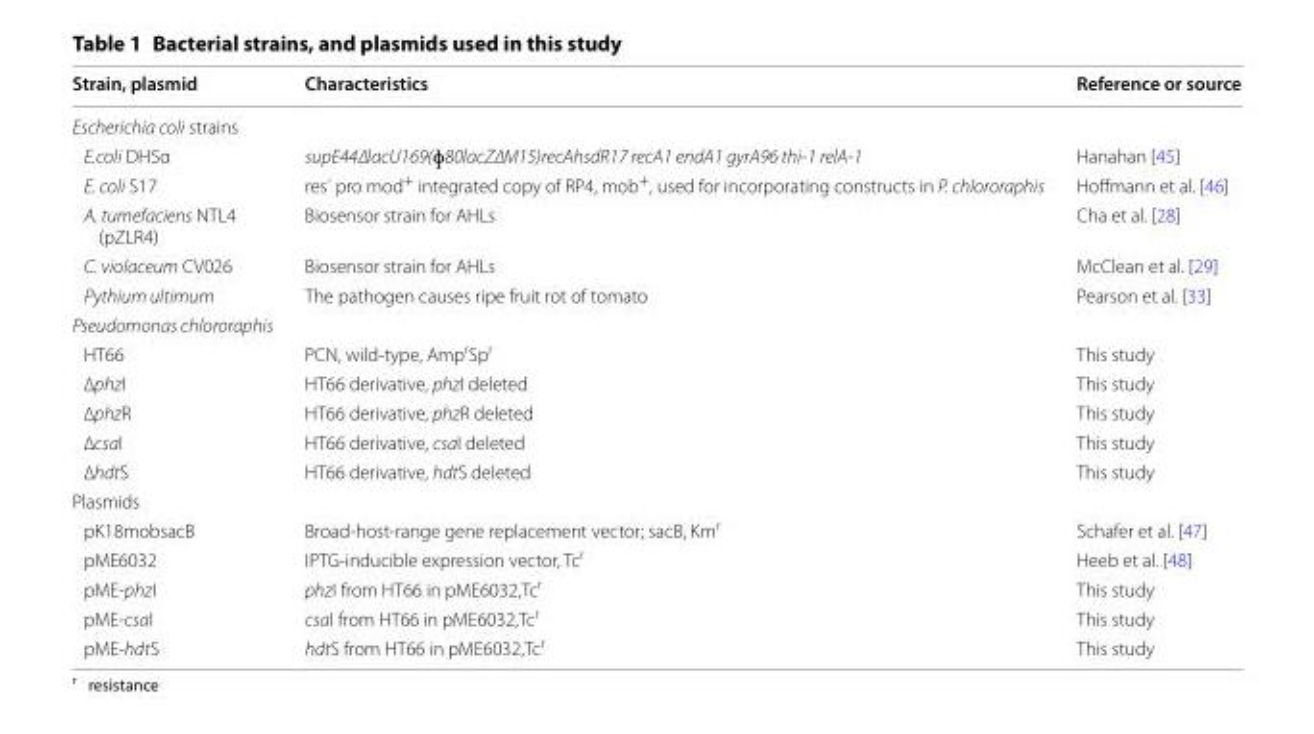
<table><thead><tr><td>Strain, plasmid</td><td>Characteristics</td><td>Reference or source</td></tr></thead><tbody><tr><td colspan="3">Escherichia coli strains</td></tr><tr><td>E.coli DH5α</td><td>supE44∆lacU169(ɸ80lacZ∆M15)recAhsdR17 recA1 endA1 gyrA96 thi-1 relA-1</td><td>Hanahan [45]</td></tr><tr><td>E. coli S17</td><td>res<sup>-</sup> pro mod<sup>+</sup> integrated copy of RP4, mob<sup>+</sup>, used for incorporating constructs in P. chlororaphis</td><td>Hoffmann et al. [46]</td></tr><tr><td>A. tumefaciens NTL4 (pZLR4)</td><td>Biosensor strain for AHLs</td><td>Cha et al. [28]</td></tr><tr><td>C. violaceum CV026</td><td>Biosensor strain for AHLs</td><td>McClean et al. [29]</td></tr><tr><td>Pythium ultimum</td><td>The pathogen causes ripe fruit rot of tomato</td><td>Pearson et al. [33]</td></tr><tr><td colspan="3">Pseudomonas chlororaphis</td></tr><tr><td>HT66</td><td>PCN, wild-type, Amp<sup>r</sup>Sp<sup>r</sup></td><td>This study</td></tr><tr><td>∆phzI</td><td>HT66 derivative, phzI deleted</td><td>This study</td></tr><tr><td>∆phzR</td><td>HT66 derivative, phzR deleted</td><td>This study</td></tr><tr><td>∆csaI</td><td>HT66 derivative, csaI deleted</td><td>This study</td></tr><tr><td>∆hdtS</td><td>HT66 derivative, hdtS deleted</td><td>This study</td></tr><tr><td colspan="3">Plasmids</td></tr><tr><td>pK18mobsacB</td><td>Broad-host-range gene replacement vector; sacB, Km<sup>r</sup></td><td>Schafer et al. [47]</td></tr><tr><td>pME6032</td><td>IPTG-inducible expression vector, Tc<sup>r</sup></td><td>Heeb et al. [48]</td></tr><tr><td>pME-phzI</td><td>phzI from HT66 in pME6032,Tc<sup>r</sup></td><td>This study</td></tr><tr><td>pME-csaI</td><td>csaI from HT66 in pME6032,Tc<sup>r</sup></td><td>This study</td></tr><tr><td>pME-hdtS</td><td>hdtS from HT66 in pME6032,Tc<sup>r</sup></td><td>This study</td></tr></tbody></table>